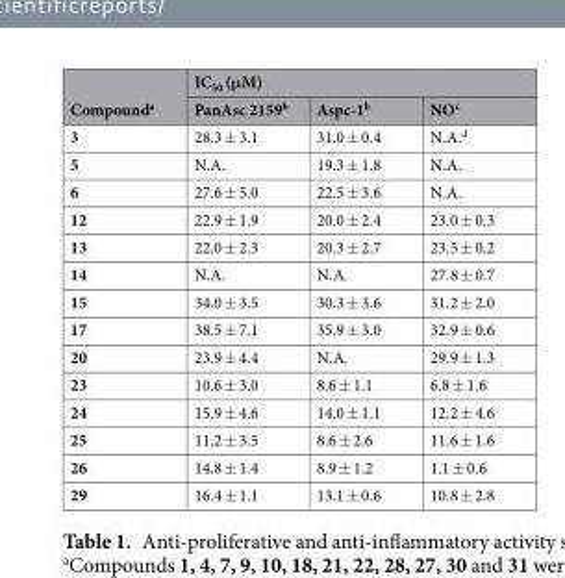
<table><thead><tr><td rowspan="2">Compound<sup>a</sup></td><td colspan="3">IC<sub>50</sub> (μM)</td></tr><tr><td>PanAsc 2159<sup>b</sup></td><td>Aspc-1<sup>b</sup></td><td>NO<sup>c</sup></td></tr></thead><tbody><tr><td>3</td><td>28.3 ± 3.1</td><td>31.0 ± 0.4</td><td>N.A.<sup>d</sup></td></tr><tr><td>5</td><td>N.A.</td><td>19.3 ± 1.8</td><td>N.A.</td></tr><tr><td>6</td><td>27.6 ± 5.0</td><td>22.5 ± 3.6</td><td>N.A.</td></tr><tr><td>12</td><td>22.9 ± 1.9</td><td>20.0 ± 2.4</td><td>23.0 ± 0.3</td></tr><tr><td>13</td><td>22.0 ± 2.3</td><td>20.3 ± 2.7</td><td>23.5 ± 0.2</td></tr><tr><td>14</td><td>N.A.</td><td>N.A.</td><td>27.8 ± 0.7</td></tr><tr><td>15</td><td>34.0 ± 3.5</td><td>30.3 ± 3.6</td><td>31.2 ± 2.0</td></tr><tr><td>17</td><td>38.5 ± 7.1</td><td>35.9 ± 3.0</td><td>32.9 ± 0.6</td></tr><tr><td>20</td><td>23.9 ± 4.4</td><td>N.A.</td><td>29.9 ± 1.3</td></tr><tr><td>23</td><td>10.6 ± 3.0</td><td>8.6 ± 1.1</td><td>6.8 ± 1.6</td></tr><tr><td>24</td><td>15.9 ± 4.6</td><td>14.0 ± 1.1</td><td>12.2 ± 4.6</td></tr><tr><td>25</td><td>11.2 ± 3.5</td><td>8.6 ± 2.6</td><td>11.6 ± 1.6</td></tr><tr><td>26</td><td>14.8 ± 1.4</td><td>8.9 ± 1.2</td><td>1.1 ± 0.6</td></tr><tr><td>29</td><td>16.4 ± 1.1</td><td>13.1 ± 0.6</td><td>10.8 ± 2.8</td></tr></tbody></table>